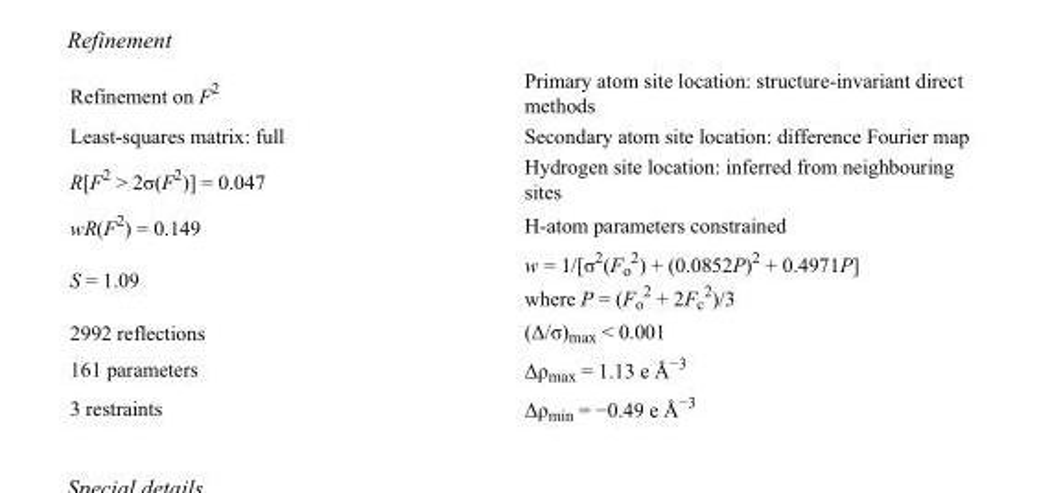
<table><tbody><tr><td>Refinement on F<sup>2</sup></td><td>Primary atom site location: structure-invariant direct methods</td></tr><tr><td>Least-squares matrix: full</td><td>Secondary atom site location: difference Fourier map</td></tr><tr><td>R[F<sup>2</sup> &gt; 2σ(F<sup>2</sup>)] = 0.047</td><td>Hydrogen site location: inferred from neighbouring sites</td></tr><tr><td>wR(F<sup>2</sup>) = 0.149</td><td>H-atom parameters constrained</td></tr><tr><td>S = 1.09</td><td>w = 1/[σ<sup>2</sup>(F<sub>o</sub> <sup>2</sup>) + (0.0852P)<sup>2</sup> + 0.4971P] where P = (F<sub>o</sub> <sup>2</sup> + 2F<sub>c</sub> <sup>2</sup>)/3</td></tr><tr><td>2992 reflections</td><td>(Δ/σ)<sub>max</sub> &lt; 0.001</td></tr><tr><td>161 parameters</td><td>Δρ<sub>max</sub> = 1.13 e Å<sup>−3</sup></td></tr><tr><td>3 restraints</td><td>Δρ<sub>min</sub> = −0.49 e Å<sup>−3</sup></td></tr></tbody></table>